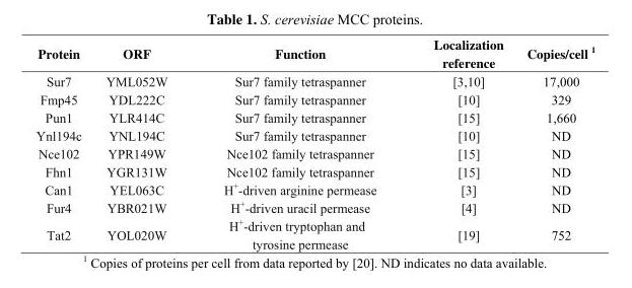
<table><thead><tr><td>Protein</td><td>ORF</td><td>Function</td><td>Localization reference</td><td>Copies/cell 1</td></tr></thead><tbody><tr><td>Sur7</td><td>YML052W</td><td>Sur7 family tetraspanner</td><td>[3,10]</td><td>17,000</td></tr><tr><td>Fmp45</td><td>YDL222C</td><td>Sur7 family tetraspanner</td><td>[10]</td><td>329</td></tr><tr><td>Pun1</td><td>YLR414C</td><td>Sur7 family tetraspanner</td><td>[15]</td><td>1,660</td></tr><tr><td>Ynl194c</td><td>YNL194C</td><td>Sur7 family tetraspanner</td><td>[10]</td><td>ND</td></tr><tr><td>Nce102</td><td>YPR149W</td><td>Nce102 family tetraspanner</td><td>[15]</td><td>ND</td></tr><tr><td>Fhn1</td><td>YGR131W</td><td>Nce102 family tetraspanner</td><td>[15]</td><td>ND</td></tr><tr><td>Can1</td><td>YEL063C</td><td>H<sup>+</sup>-driven arginine permease</td><td>[3]</td><td>ND</td></tr><tr><td>Fur4</td><td>YBR021W</td><td>H<sup>+</sup>-driven uracil permease</td><td>[4]</td><td>ND</td></tr><tr><td>Tat2</td><td>YOL020W</td><td>H<sup>+</sup>-driven tryptophan and tyrosine permease</td><td>[19]</td><td>752</td></tr></tbody></table>